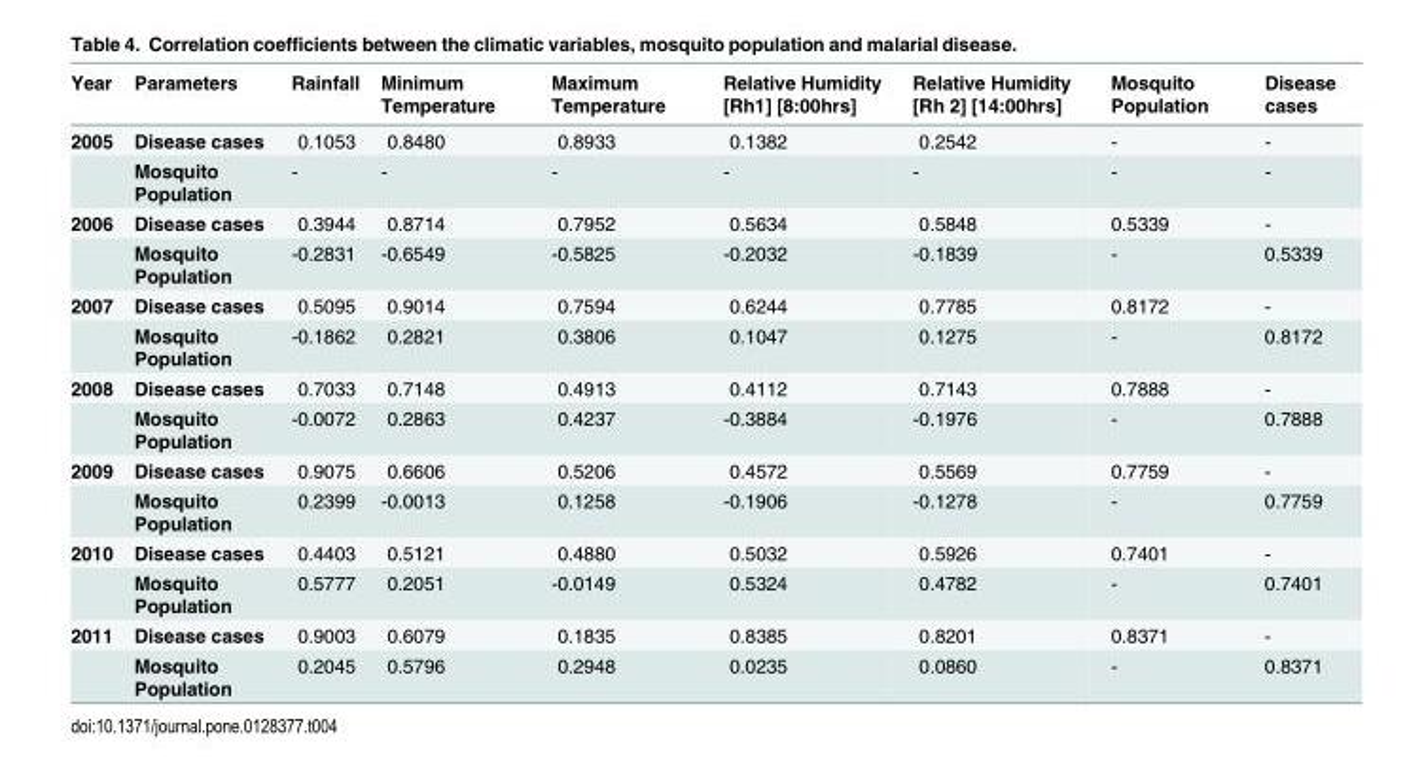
<table><thead><tr><td>Year</td><td>Parameters</td><td>Rainfall</td><td>Minimum Temperature</td><td>Maximum Temperature</td><td>Relative Humidity [Rh1] [8:00hrs]</td><td>Relative Humidity [Rh 2] [14:00hrs]</td><td>Mosquito Population</td><td>Disease cases</td></tr></thead><tbody><tr><td rowspan="2">2005</td><td>Disease cases</td><td>0.1053</td><td>0.8480</td><td>0.8933</td><td>0.1382</td><td>0.2542</td><td>-</td><td>-</td></tr><tr><td>Mosquito Population</td><td>-</td><td>-</td><td>-</td><td>-</td><td>-</td><td>-</td><td>-</td></tr><tr><td rowspan="2">2006</td><td>Disease cases</td><td>0.3944</td><td>0.8714</td><td>0.7952</td><td>0.5634</td><td>0.5848</td><td>0.5339</td><td>-</td></tr><tr><td>Mosquito Population</td><td>-0.2831</td><td>-0.6549</td><td>-0.5825</td><td>-0.2032</td><td>-0.1839</td><td>-</td><td>0.5339</td></tr><tr><td rowspan="2">2007</td><td>Disease cases</td><td>0.5095</td><td>0.9014</td><td>0.7594</td><td>0.6244</td><td>0.7785</td><td>0.8172</td><td>-</td></tr><tr><td>Mosquito Population</td><td>-0.1862</td><td>0.2821</td><td>0.3806</td><td>0.1047</td><td>0.1275</td><td>-</td><td>0.8172</td></tr><tr><td rowspan="2">2008</td><td>Disease cases</td><td>0.7033</td><td>0.7148</td><td>0.4913</td><td>0.4112</td><td>0.7143</td><td>0.7888</td><td>-</td></tr><tr><td>Mosquito Population</td><td>-0.0072</td><td>0.2863</td><td>0.4237</td><td>-0.3884</td><td>-0.1976</td><td>-</td><td>0.7888</td></tr><tr><td rowspan="2">2009</td><td>Disease cases</td><td>0.9075</td><td>0.6606</td><td>0.5206</td><td>0.4572</td><td>0.5569</td><td>0.7759</td><td>-</td></tr><tr><td>Mosquito Population</td><td>0.2399</td><td>-0.0013</td><td>0.1258</td><td>-0.1906</td><td>-0.1278</td><td>-</td><td>0.7759</td></tr><tr><td rowspan="2">2010</td><td>Disease cases</td><td>0.4403</td><td>0.5121</td><td>0.4880</td><td>0.5032</td><td>0.5926</td><td>0.7401</td><td>-</td></tr><tr><td>Mosquito Population</td><td>0.5777</td><td>0.2051</td><td>-0.0149</td><td>0.5324</td><td>0.4782</td><td>-</td><td>0.7401</td></tr><tr><td rowspan="2">2011</td><td>Disease cases</td><td>0.9003</td><td>0.6079</td><td>0.1835</td><td>0.8385</td><td>0.8201</td><td>0.8371</td><td>-</td></tr><tr><td>Mosquito Population</td><td>0.2045</td><td>0.5796</td><td>0.2948</td><td>0.0235</td><td>0.0860</td><td>-</td><td>0.8371</td></tr></tbody></table>